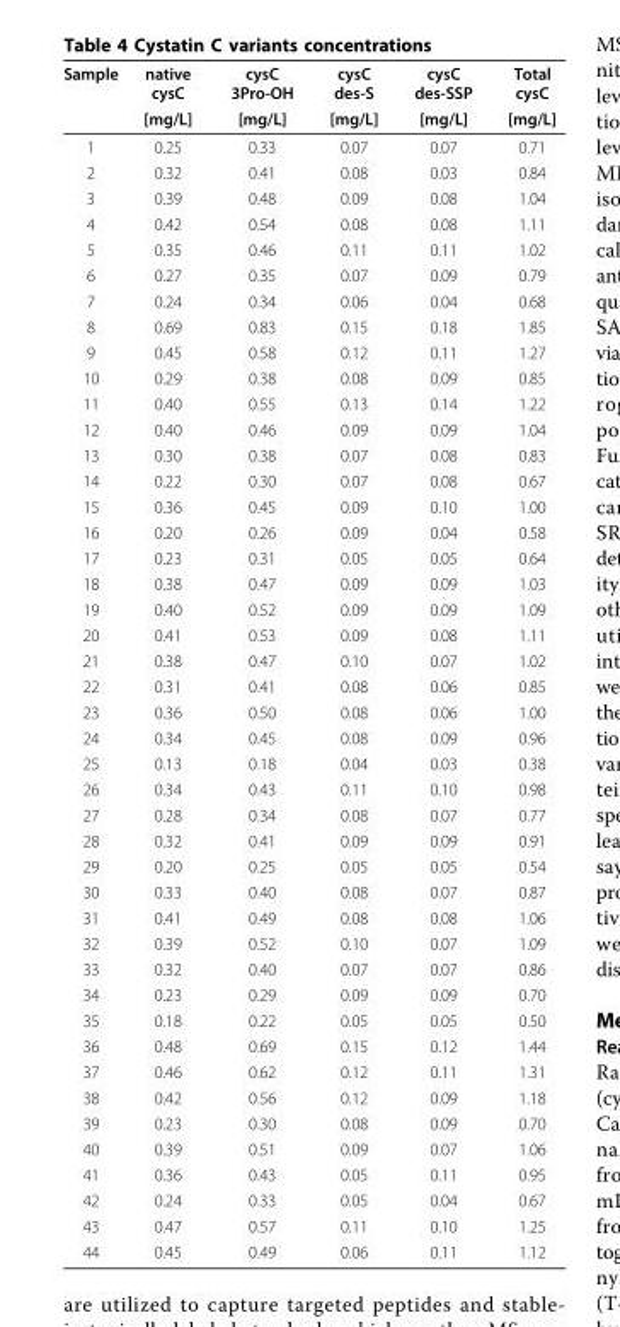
<table><thead><tr><td rowspan="2">Sample</td><td rowspan="2">native cysC [mg/L]</td><td rowspan="2">cysC 3Pro-OH [mg/L]</td><td rowspan="2">cysC des-S [mg/L]</td><td rowspan="2">cysC des-SSP [mg/L]</td><td rowspan="2">Total cysC [mg/L]</td></tr><tr></tr></thead><tbody><tr><td>1</td><td>0.25</td><td>0.33</td><td>0.07</td><td>0.07</td><td>0.71</td></tr><tr><td>2</td><td>0.32</td><td>0.41</td><td>0.08</td><td>0.03</td><td>0.84</td></tr><tr><td>3</td><td>0.39</td><td>0.48</td><td>0.09</td><td>0.08</td><td>1.04</td></tr><tr><td>4</td><td>0.42</td><td>0.54</td><td>0.08</td><td>0.08</td><td>1.11</td></tr><tr><td>5</td><td>0.35</td><td>0.46</td><td>0.11</td><td>0.11</td><td>1.02</td></tr><tr><td>6</td><td>0.27</td><td>0.35</td><td>0.07</td><td>0.09</td><td>0.79</td></tr><tr><td>7</td><td>0.24</td><td>0.34</td><td>0.06</td><td>0.04</td><td>0.68</td></tr><tr><td>8</td><td>0.69</td><td>0.83</td><td>0.15</td><td>0.18</td><td>1.85</td></tr><tr><td>9</td><td>0.45</td><td>0.58</td><td>0.12</td><td>0.11</td><td>1.27</td></tr><tr><td>10</td><td>0.29</td><td>0.38</td><td>0.08</td><td>0.09</td><td>0.85</td></tr><tr><td>11</td><td>0.40</td><td>0.55</td><td>0.13</td><td>0.14</td><td>1.22</td></tr><tr><td>12</td><td>0.40</td><td>0.46</td><td>0.09</td><td>0.09</td><td>1.04</td></tr><tr><td>13</td><td>0.30</td><td>0.38</td><td>0.07</td><td>0.08</td><td>0.83</td></tr><tr><td>14</td><td>0.22</td><td>0.30</td><td>0.07</td><td>0.08</td><td>0.67</td></tr><tr><td>15</td><td>0.36</td><td>0.45</td><td>0.09</td><td>0.10</td><td>1.00</td></tr><tr><td>16</td><td>0.20</td><td>0.26</td><td>0.09</td><td>0.04</td><td>0.58</td></tr><tr><td>17</td><td>0.23</td><td>0.31</td><td>0.05</td><td>0.05</td><td>0.64</td></tr><tr><td>18</td><td>0.38</td><td>0.47</td><td>0.09</td><td>0.09</td><td>1.03</td></tr><tr><td>19</td><td>0.40</td><td>0.52</td><td>0.09</td><td>0.09</td><td>1.09</td></tr><tr><td>20</td><td>0.41</td><td>0.53</td><td>0.09</td><td>0.08</td><td>1.11</td></tr><tr><td>21</td><td>0.38</td><td>0.47</td><td>0.10</td><td>0.07</td><td>1.02</td></tr><tr><td>22</td><td>0.31</td><td>0.41</td><td>0.08</td><td>0.06</td><td>0.85</td></tr><tr><td>23</td><td>0.36</td><td>0.50</td><td>0.08</td><td>0.06</td><td>1.00</td></tr><tr><td>24</td><td>0.34</td><td>0.45</td><td>0.08</td><td>0.09</td><td>0.96</td></tr><tr><td>25</td><td>0.13</td><td>0.18</td><td>0.04</td><td>0.03</td><td>0.38</td></tr><tr><td>26</td><td>0.34</td><td>0.43</td><td>0.11</td><td>0.10</td><td>0.98</td></tr><tr><td>27</td><td>0.28</td><td>0.34</td><td>0.08</td><td>0.07</td><td>0.77</td></tr><tr><td>28</td><td>0.32</td><td>0.41</td><td>0.09</td><td>0.09</td><td>0.91</td></tr><tr><td>29</td><td>0.20</td><td>0.25</td><td>0.05</td><td>0.05</td><td>0.54</td></tr><tr><td>30</td><td>0.33</td><td>0.40</td><td>0.08</td><td>0.07</td><td>0.87</td></tr><tr><td>31</td><td>0.41</td><td>0.49</td><td>0.08</td><td>0.08</td><td>1.06</td></tr><tr><td>32</td><td>0.39</td><td>0.52</td><td>0.10</td><td>0.07</td><td>1.09</td></tr><tr><td>33</td><td>0.32</td><td>0.40</td><td>0.07</td><td>0.07</td><td>0.86</td></tr><tr><td>34</td><td>0.23</td><td>0.29</td><td>0.09</td><td>0.09</td><td>0.70</td></tr><tr><td>35</td><td>0.18</td><td>0.22</td><td>0.05</td><td>0.05</td><td>0.50</td></tr><tr><td>36</td><td>0.48</td><td>0.69</td><td>0.15</td><td>0.12</td><td>1.44</td></tr><tr><td>37</td><td>0.46</td><td>0.62</td><td>0.12</td><td>0.11</td><td>1.31</td></tr><tr><td>38</td><td>0.42</td><td>0.56</td><td>0.12</td><td>0.09</td><td>1.18</td></tr><tr><td>39</td><td>0.23</td><td>0.30</td><td>0.08</td><td>0.09</td><td>0.70</td></tr><tr><td>40</td><td>0.39</td><td>0.51</td><td>0.09</td><td>0.07</td><td>1.06</td></tr><tr><td>41</td><td>0.36</td><td>0.43</td><td>0.05</td><td>0.11</td><td>0.95</td></tr><tr><td>42</td><td>0.24</td><td>0.33</td><td>0.05</td><td>0.04</td><td>0.67</td></tr><tr><td>43</td><td>0.47</td><td>0.57</td><td>0.11</td><td>0.10</td><td>1.25</td></tr><tr><td>44</td><td>0.45</td><td>0.49</td><td>0.06</td><td>0.11</td><td>1.12</td></tr></tbody></table>